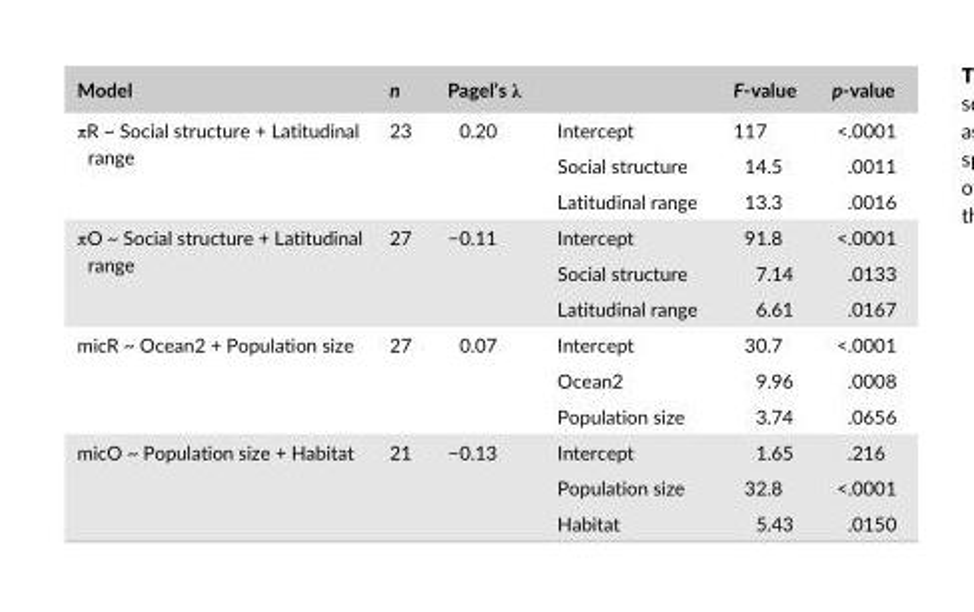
<table><thead><tr><td>Model</td><td>n</td><td>Pagel’s λ</td><td></td><td>F- value</td><td>p- value</td></tr></thead><tbody><tr><td rowspan="3">πR ~ Social structure + Latitudinal range</td><td rowspan="3">23</td><td rowspan="3">0.20</td><td>Intercept</td><td>117</td><td>&lt;.0001</td></tr><tr><td>Social structure</td><td>14.5</td><td>.0011</td></tr><tr><td>Latitudinal range</td><td>13.3</td><td>.0016</td></tr><tr><td rowspan="3">πO ~ Social structure + Latitudinal range</td><td rowspan="3">27</td><td rowspan="3">−0.11</td><td>Intercept</td><td>91.8</td><td>&lt;.0001</td></tr><tr><td>Social structure</td><td>7.14</td><td>.0133</td></tr><tr><td>Latitudinal range</td><td>6.61</td><td>.0167</td></tr><tr><td rowspan="3">micR ~ Ocean2 + Population size</td><td rowspan="3">27</td><td rowspan="3">0.07</td><td>Intercept</td><td>30.7</td><td>&lt;.0001</td></tr><tr><td>Ocean2</td><td>9.96</td><td>.0008</td></tr><tr><td>Population size</td><td>3.74</td><td>.0656</td></tr><tr><td rowspan="3">micO ~ Population size + Habitat</td><td rowspan="3">21</td><td rowspan="3">−0.13</td><td>Intercept</td><td>1.65</td><td>.216</td></tr><tr><td>Population size</td><td>32.8</td><td>&lt;.0001</td></tr><tr><td>Habitat</td><td>5.43</td><td>.0150</td></tr></tbody></table>